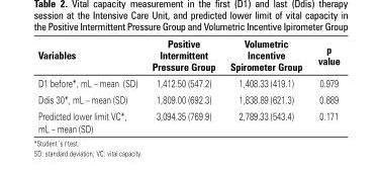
<table><thead><tr><td>Variables</td><td>Positive Intermittent Pressure Group</td><td>Volumetric Incentive Spirometer Group</td><td>p value</td></tr></thead><tbody><tr><td>D1 before*, mL – mean (SD)</td><td>1,412.50 (547.2)</td><td>1,408.33 (419.1)</td><td>0.979</td></tr><tr><td>Ddis 30*, mL – mean (SD)</td><td>1,809.00 (692.3)</td><td>1,838.89 (621.3)</td><td>0.889</td></tr><tr><td>Predicted lower limit VC*, mL – mean (SD)</td><td>3,094.35 (769.9)</td><td>2,789.33 (543.4)</td><td>0.171</td></tr></tbody></table>